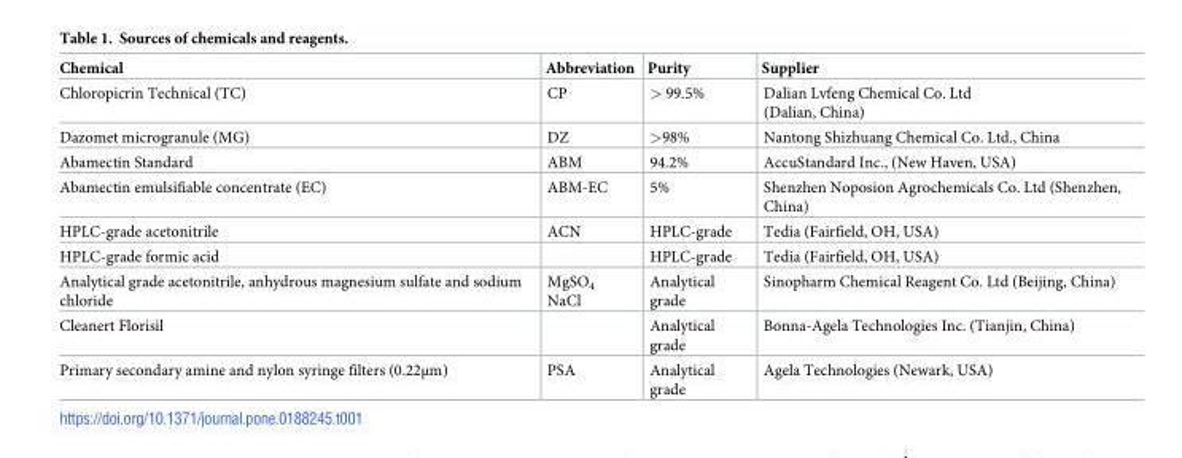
<table><thead><tr><td>Chemical</td><td>Abbreviation</td><td>Purity</td><td>Supplier</td></tr></thead><tbody><tr><td>Chloropicrin Technical (TC)</td><td>CP</td><td>&gt; 99.5%</td><td>Dalian Lvfeng Chemical Co. Ltd (Dalian, China)</td></tr><tr><td>Dazomet microgranule (MG)</td><td>DZ</td><td>&gt;98%</td><td>Nantong Shizhuang Chemical Co. Ltd., China</td></tr><tr><td>Abamectin Standard</td><td>ABM</td><td>94.2%</td><td>AccuStandard Inc., (New Haven, USA)</td></tr><tr><td>Abamectin emulsifiable concentrate (EC)</td><td>ABM-EC</td><td>5%</td><td>Shenzhen Noposion Agrochemicals Co. Ltd (Shenzhen, China)</td></tr><tr><td>HPLC-grade acetonitrile</td><td>ACN</td><td>HPLC-grade</td><td>Tedia (Fairfield, OH, USA)</td></tr><tr><td>HPLC-grade formic acid</td><td></td><td>HPLC-grade</td><td>Tedia (Fairfield, OH, USA)</td></tr><tr><td>Analytical grade acetonitrile, anhydrous magnesium sulfate and sodium chloride</td><td>MgSO<sub>4</sub> NaCl</td><td>Analytical grade</td><td>Sinopharm Chemical Reagent Co. Ltd (Beijing, China)</td></tr><tr><td>Cleanert Florisil</td><td></td><td>Analytical grade</td><td>Bonna-Agela Technologies Inc. (Tianjin, China)</td></tr><tr><td>Primary secondary amine and nylon syringe filters (0.22μm)</td><td>PSA</td><td>Analytical grade</td><td>Agela Technologies (Newark, USA)</td></tr></tbody></table>